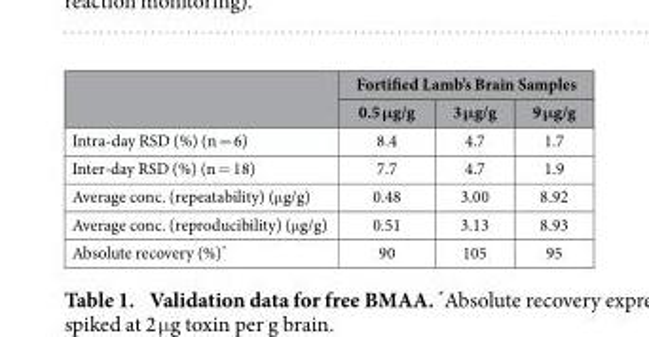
<table><thead><tr><td rowspan="2"></td><td colspan="3">Fortified Lamb’s Brain Samples</td></tr><tr><td>0.5 μg/g</td><td>3 μg/g</td><td>9 μg/g</td></tr></thead><tbody><tr><td>Intra-day RSD (%) (n = 6)</td><td>8.4</td><td>4.7</td><td>1.7</td></tr><tr><td>Inter-day RSD (%) (n = 18)</td><td>7.7</td><td>4.7</td><td>1.9</td></tr><tr><td>Average conc. (repeatability) (μ g/g)</td><td>0.48</td><td>3.00</td><td>8.92</td></tr><tr><td>Average conc. (reproducibility) (μ g/g)</td><td>0.51</td><td>3.13</td><td>8.93</td></tr><tr><td>Absolute recovery (%)*</td><td>90</td><td>105</td><td>95</td></tr></tbody></table>